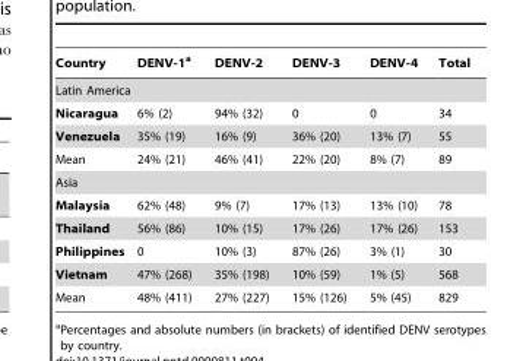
<table><thead><tr><td>Country</td><td>DENV-1<sup>a</sup></td><td>DENV-2</td><td>DENV-3</td><td>DENV-4</td><td>Total</td></tr></thead><tbody><tr><td colspan="6">Latin America</td></tr><tr><td>Nicaragua</td><td>6% (2)</td><td>94% (32)</td><td>0</td><td>0</td><td>34</td></tr><tr><td>Venezuela</td><td>35% (19)</td><td>16% (9)</td><td>36% (20)</td><td>13% (7)</td><td>55</td></tr><tr><td>Mean</td><td>24% (21)</td><td>46% (41)</td><td>22% (20)</td><td>8% (7)</td><td>89</td></tr><tr><td colspan="6">Asia</td></tr><tr><td>Malaysia</td><td>62% (48)</td><td>9% (7)</td><td>17% (13)</td><td>13% (10)</td><td>78</td></tr><tr><td>Thailand</td><td>56% (86)</td><td>10% (15)</td><td>17% (26)</td><td>17% (26)</td><td>153</td></tr><tr><td>Philippines</td><td>0</td><td>10% (3)</td><td>87% (26)</td><td>3% (1)</td><td>30</td></tr><tr><td>Vietnam</td><td>47% (268)</td><td>35% (198)</td><td>10% (59)</td><td>1% (5)</td><td>568</td></tr><tr><td>Mean</td><td>48% (411)</td><td>27% (227)</td><td>15% (126)</td><td>5% (45)</td><td>829</td></tr></tbody></table>